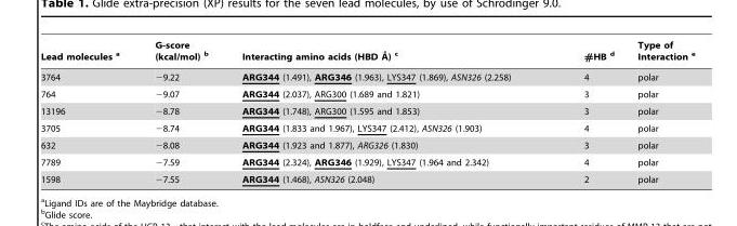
<table><thead><tr><td>Lead molecules a</td><td>G-score (kcal/mol) b</td><td>Interacting amino acids (HBD A˚ ) c</td><td>#HB d</td><td>Type of Interaction e</td></tr></thead><tbody><tr><td>3764</td><td>−9.22</td><td>ARG344 (1.491), ARG346 (1.963), LYS347 (1.869), ASN326 (2.258)</td><td>4</td><td>polar</td></tr><tr><td>764</td><td>−9.07</td><td>ARG344 (2.037), ARG300 (1.689 and 1.821)</td><td>3</td><td>polar</td></tr><tr><td>13196</td><td>−8.78</td><td>ARG344 (1.748), ARG300 (1.595 and 1.853)</td><td>3</td><td>polar</td></tr><tr><td>3705</td><td>−8.74</td><td>ARG344 (1.833 and 1.967), LYS347 (2.412), ASN326 (1.903)</td><td>4</td><td>polar</td></tr><tr><td>632</td><td>−8.08</td><td>ARG344 (1.923 and 1.877), ARG326 (1.830)</td><td>3</td><td>polar</td></tr><tr><td>7789</td><td>−7.59</td><td>ARG344 (2.324), ARG346 (1.929), LYS347 (1.964 and 2.342)</td><td>4</td><td>polar</td></tr><tr><td>1598</td><td>−7.55</td><td>ARG344 (1.468), ASN326 (2.048)</td><td>2</td><td>polar</td></tr></tbody></table>